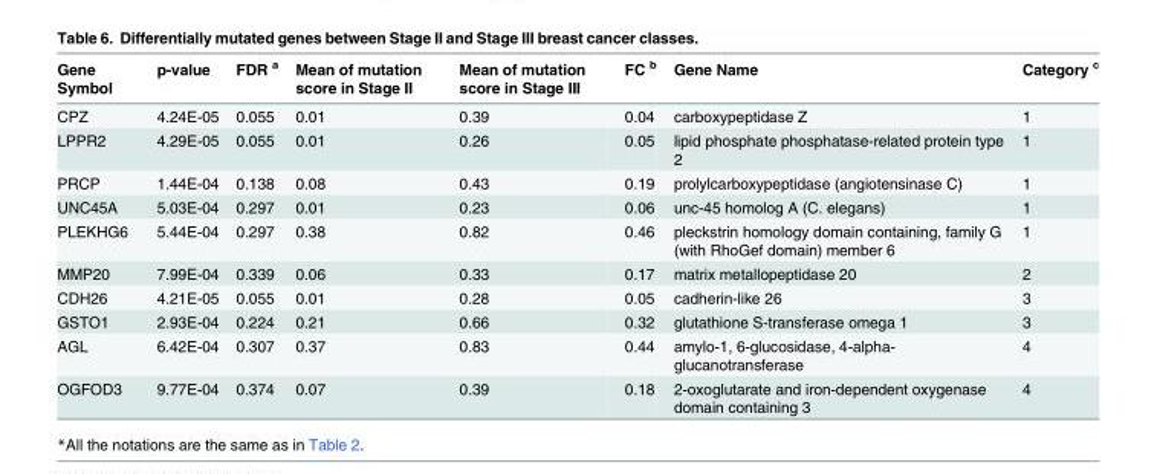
<table><thead><tr><td>Gene Symbol</td><td>p-value</td><td>FDR <sup>a</sup></td><td>Mean of mutation score in Stage II</td><td>Mean of mutation score in Stage III</td><td>FC <sup>b</sup></td><td>Gene Name</td><td>Category <sup>c</sup></td></tr></thead><tbody><tr><td>CPZ</td><td>4.24E-05</td><td>0.055</td><td>0.01</td><td>0.39</td><td>0.04</td><td>carboxypeptidase Z</td><td>1</td></tr><tr><td>LPPR2</td><td>4.29E-05</td><td>0.055</td><td>0.01</td><td>0.26</td><td>0.05</td><td>lipid phosphate phosphatase-related protein type 2</td><td>1</td></tr><tr><td>PRCP</td><td>1.44E-04</td><td>0.138</td><td>0.08</td><td>0.43</td><td>0.19</td><td>prolylcarboxypeptidase (angiotensinase C)</td><td>1</td></tr><tr><td>UNC45A</td><td>5.03E-04</td><td>0.297</td><td>0.01</td><td>0.23</td><td>0.06</td><td>unc-45 homolog A (C. elegans)</td><td>1</td></tr><tr><td>PLEKHG6</td><td>5.44E-04</td><td>0.297</td><td>0.38</td><td>0.82</td><td>0.46</td><td>pleckstrin homology domain containing, family G (with RhoGef domain) member 6</td><td>1</td></tr><tr><td>MMP20</td><td>7.99E-04</td><td>0.339</td><td>0.06</td><td>0.33</td><td>0.17</td><td>matrix metallopeptidase 20</td><td>2</td></tr><tr><td>CDH26</td><td>4.21E-05</td><td>0.055</td><td>0.01</td><td>0.28</td><td>0.05</td><td>cadherin-like 26</td><td>3</td></tr><tr><td>GSTO1</td><td>2.93E-04</td><td>0.224</td><td>0.21</td><td>0.66</td><td>0.32</td><td>glutathione S-transferase omega 1</td><td>3</td></tr><tr><td>AGL</td><td>6.42E-04</td><td>0.307</td><td>0.37</td><td>0.83</td><td>0.44</td><td>amylo-1, 6-glucosidase, 4-alpha- glucanotransferase</td><td>4</td></tr><tr><td>OGFOD3</td><td>9.77E-04</td><td>0.374</td><td>0.07</td><td>0.39</td><td>0.18</td><td>2-oxoglutarate and iron-dependent oxygenase domain containing 3</td><td>4</td></tr></tbody></table>